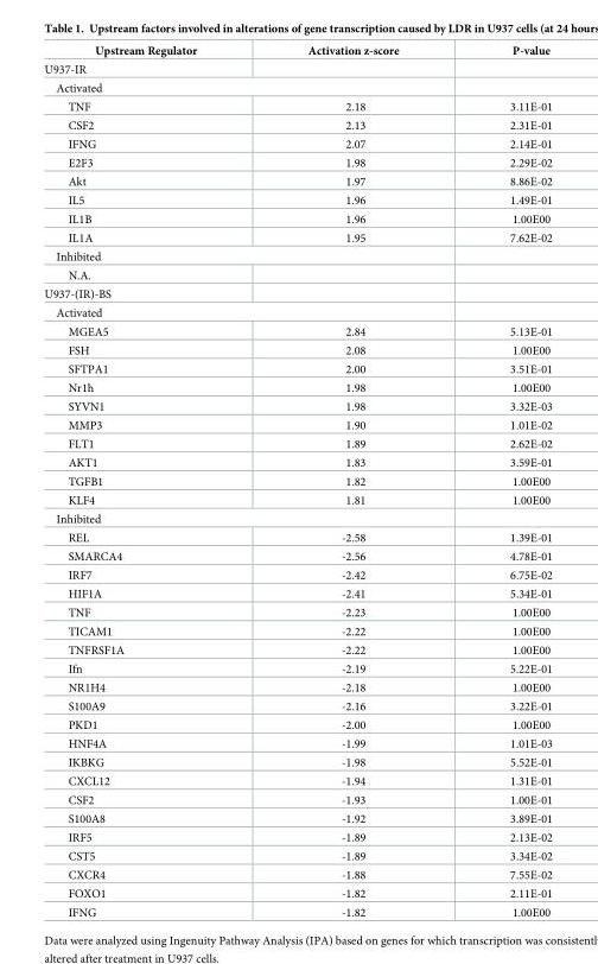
<table><thead><tr><td>Upstream Regulator</td><td>Activation z-score</td><td>P-value</td></tr></thead><tbody><tr><td colspan="3">U937-IR</td></tr><tr><td colspan="3">Activated</td></tr><tr><td>TNF</td><td>2.18</td><td>3.11E-01</td></tr><tr><td>CSF2</td><td>2.13</td><td>2.31E-01</td></tr><tr><td>IFNG</td><td>2.07</td><td>2.14E-01</td></tr><tr><td>E2F3</td><td>1.98</td><td>2.29E-02</td></tr><tr><td>Akt</td><td>1.97</td><td>8.86E-02</td></tr><tr><td>IL5</td><td>1.96</td><td>1.49E-01</td></tr><tr><td>IL1B</td><td>1.96</td><td>1.00E00</td></tr><tr><td>IL1A</td><td>1.95</td><td>7.62E-02</td></tr><tr><td colspan="3">Inhibited</td></tr><tr><td colspan="3">N.A.</td></tr><tr><td colspan="3">U937-(IR)-BS</td></tr><tr><td colspan="3">Activated</td></tr><tr><td>MGEA5</td><td>2.84</td><td>5.13E-01</td></tr><tr><td>FSH</td><td>2.08</td><td>1.00E00</td></tr><tr><td>SFTPA1</td><td>2.00</td><td>3.51E-01</td></tr><tr><td>Nr1h</td><td>1.98</td><td>1.00E00</td></tr><tr><td>SYVN1</td><td>1.98</td><td>3.32E-03</td></tr><tr><td>MMP3</td><td>1.90</td><td>1.01E-02</td></tr><tr><td>FLT1</td><td>1.89</td><td>2.62E-02</td></tr><tr><td>AKT1</td><td>1.83</td><td>3.59E-01</td></tr><tr><td>TGFB1</td><td>1.82</td><td>1.00E00</td></tr><tr><td>KLF4</td><td>1.81</td><td>1.00E00</td></tr><tr><td colspan="3">Inhibited</td></tr><tr><td>REL</td><td>-2.58</td><td>1.39E-01</td></tr><tr><td>SMARCA4</td><td>-2.56</td><td>4.78E-01</td></tr><tr><td>IRF7</td><td>-2.42</td><td>6.75E-02</td></tr><tr><td>HIF1A</td><td>-2.41</td><td>5.34E-01</td></tr><tr><td>TNF</td><td>-2.23</td><td>1.00E00</td></tr><tr><td>TICAM1</td><td>-2.22</td><td>1.00E00</td></tr><tr><td>TNFRSF1A</td><td>-2.22</td><td>1.00E00</td></tr><tr><td>Ifn</td><td>-2.19</td><td>5.22E-01</td></tr><tr><td>NR1H4</td><td>-2.18</td><td>1.00E00</td></tr><tr><td>S100A9</td><td>-2.16</td><td>3.22E-01</td></tr><tr><td>PKD1</td><td>-2.00</td><td>1.00E00</td></tr><tr><td>HNF4A</td><td>-1.99</td><td>1.01E-03</td></tr><tr><td>IKBKG</td><td>-1.98</td><td>5.52E-01</td></tr><tr><td>CXCL12</td><td>-1.94</td><td>1.31E-01</td></tr><tr><td>CSF2</td><td>-1.93</td><td>1.00E-01</td></tr><tr><td>S100A8</td><td>-1.92</td><td>3.89E-01</td></tr><tr><td>IRF5</td><td>-1.89</td><td>2.13E-02</td></tr><tr><td>CST5</td><td>-1.89</td><td>3.34E-02</td></tr><tr><td>CXCR4</td><td>-1.88</td><td>7.55E-02</td></tr><tr><td>FOXO1</td><td>-1.82</td><td>2.11E-01</td></tr><tr><td>IFNG</td><td>-1.82</td><td>1.00E00</td></tr></tbody></table>